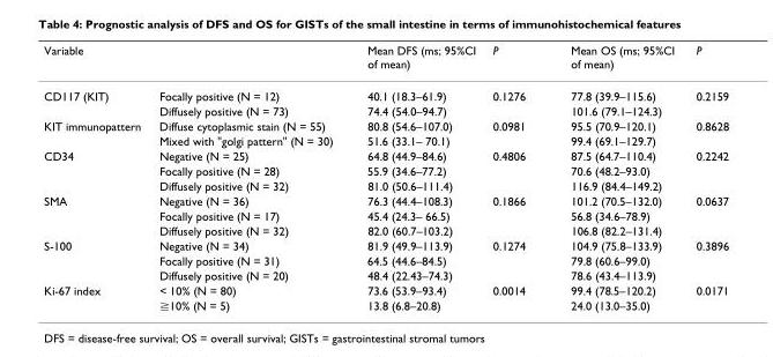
<table><thead><tr><td>Variable</td><td></td><td>Mean DFS (ms; 95%CI of mean)</td><td>P</td><td>Mean OS (ms; 95%CI of mean)</td><td>P</td></tr></thead><tbody><tr><td rowspan="2">CD117 (KIT)</td><td>Focally positive (N = 12)</td><td>40.1 (18.3–61.9)</td><td>0.1276</td><td>77.8 (39.9–115.6)</td><td>0.2159</td></tr><tr><td>Diffusely positive (N = 73)</td><td>74.4 (54.0–94.7)</td><td></td><td>101.6 (79.1–124.3)</td><td></td></tr><tr><td rowspan="2">KIT immunopattern</td><td>Diffuse cytoplasmic stain (N = 55)</td><td>80.8 (54.6–107.0)</td><td>0.0981</td><td>95.5 (70.9–120.1)</td><td>0.8628</td></tr><tr><td>Mixed with &quot;golgi pattern&quot; (N = 30)</td><td>51.6 (33.1– 70.1)</td><td></td><td>99.4 (69.1–129.7)</td><td></td></tr><tr><td rowspan="3">CD34</td><td>Negative (N = 25)</td><td>64.8 (44.9–84.6)</td><td>0.4806</td><td>87.5 (64.7–110.4)</td><td>0.2242</td></tr><tr><td>Focally positive (N = 28)</td><td>55.9 (34.6–77.2)</td><td></td><td>70.6 (48.2–93.0)</td><td></td></tr><tr><td>Diffusely positive (N = 32)</td><td>81.0 (50.6–111.4)</td><td></td><td>116.9 (84.4–149.2)</td><td></td></tr><tr><td rowspan="3">SMA</td><td>Negative (N = 36)</td><td>76.3 (44.4–108.3)</td><td>0.1866</td><td>101.2 (70.5–132.0)</td><td>0.0637</td></tr><tr><td>Focally positive (N = 17)</td><td>45.4 (24.3– 66.5)</td><td></td><td>56.8 (34.6–78.9)</td><td></td></tr><tr><td>Diffusely positive (N = 32)</td><td>82.0 (60.7–103.2)</td><td></td><td>106.8 (82.2–131.4)</td><td></td></tr><tr><td rowspan="3">S-100</td><td>Negative (N = 34)</td><td>81.9 (49.9–113.9)</td><td>0.1274</td><td>104.9 (75.8–133.9)</td><td>0.3896</td></tr><tr><td>Focally positive (N = 31)</td><td>64.5 (44.6–84.5)</td><td></td><td>79.8 (60.6–99.0)</td><td></td></tr><tr><td>Diffusely positive (N = 20)</td><td>48.4 (22.43–74.3)</td><td></td><td>78.6 (43.4–113.9)</td><td></td></tr><tr><td rowspan="2">Ki-67 index</td><td>&lt; 10% (N = 80)</td><td>73.6 (53.9–93.4)</td><td>0.0014</td><td>99.4 (78.5–120.2)</td><td>0.0171</td></tr><tr><td>≧10% (N = 5)</td><td>13.8 (6.8–20.8)</td><td></td><td>24.0 (13.0–35.0)</td><td></td></tr></tbody></table>